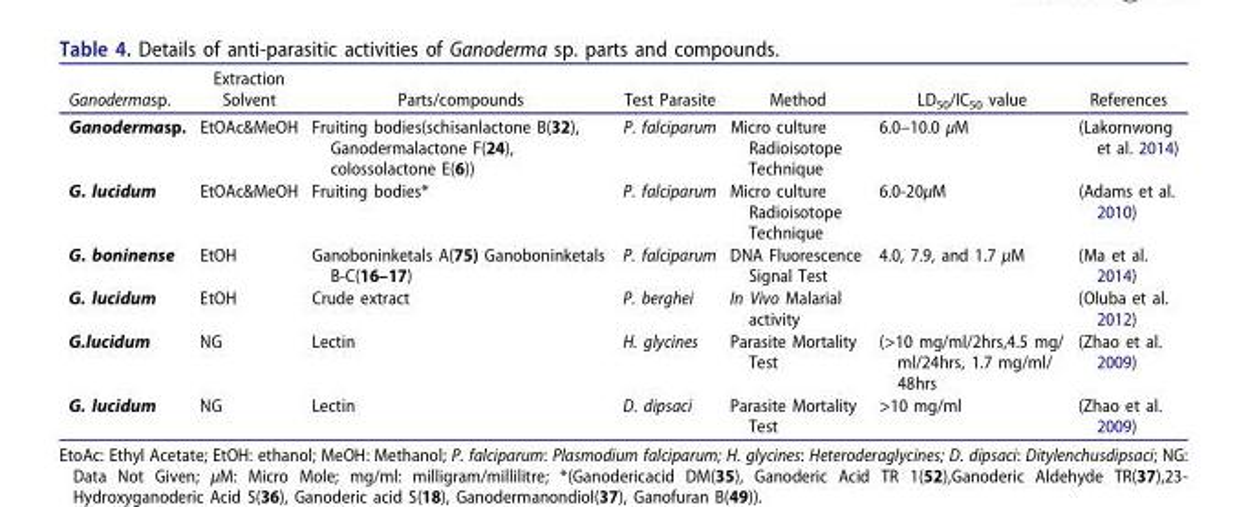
<table><thead><tr><td>Ganodermasp.</td><td>Extraction Solvent</td><td>Parts/compounds</td><td>Test Parasite</td><td>Method</td><td>LD<sub>50</sub>/IC<sub>50</sub> value</td><td>References</td></tr></thead><tbody><tr><td>Ganodermasp.</td><td>EtOAc&amp;MeOH</td><td>Fruiting bodies(schisanlactone B(32), Ganodermalactone F(24), colossolactone E(6))</td><td>P. falciparum</td><td>Micro culture Radioisotope Technique</td><td>6.0–10.0 μM</td><td>(Lakornwong et al. 2014)</td></tr><tr><td>G. lucidum</td><td>EtOAc&amp;MeOH</td><td>Fruiting bodies*</td><td>P. falciparum</td><td>Micro culture Radioisotope Technique</td><td>6.0-20μM</td><td>(Adams et al. 2010)</td></tr><tr><td>G. boninense</td><td>EtOH</td><td>Ganoboninketals A(75) Ganoboninketals B-C(16–17)</td><td>P. falciparum</td><td>DNA Fluorescence Signal Test</td><td>4.0, 7.9, and 1.7 μM</td><td>(Ma et al. 2014)</td></tr><tr><td>G. lucidum</td><td>EtOH</td><td>Crude extract</td><td>P. berghei</td><td>In Vivo Malarial activity</td><td></td><td>(Oluba et al. 2012)</td></tr><tr><td>G.lucidum</td><td>NG</td><td>Lectin</td><td>H. glycines</td><td>Parasite Mortality Test</td><td>(&gt;10 mg/ml/2hrs,4.5 mg/ ml/24hrs, 1.7 mg/ml/ 48hrs</td><td>(Zhao et al. 2009)</td></tr><tr><td>G. lucidum</td><td>NG</td><td>Lectin</td><td>D. dipsaci</td><td>Parasite Mortality Test</td><td>&gt;10 mg/ml</td><td>(Zhao et al. 2009)</td></tr></tbody></table>